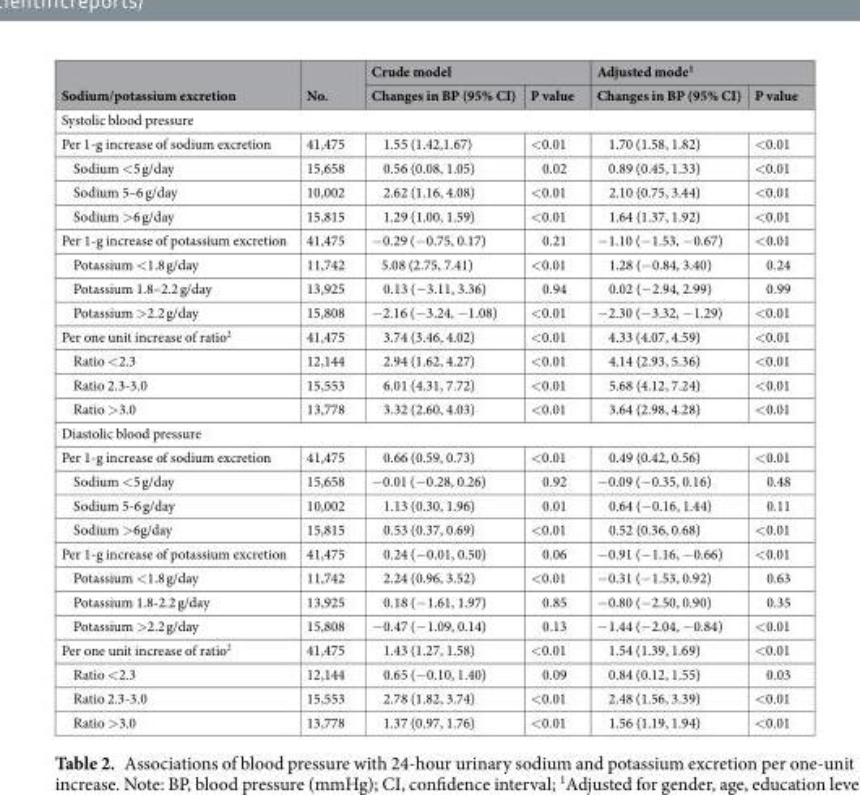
<table><thead><tr><td rowspan="2">Sodium/potassium excretion</td><td rowspan="2">No.</td><td colspan="2">Crude model</td><td colspan="2">Adjusted mode<sup>1</sup></td></tr><tr><td>Changes in BP (95% CI)</td><td>P value</td><td>Changes in BP (95% CI)</td><td>P value</td></tr></thead><tbody><tr><td colspan="6">Systolic blood pressure</td></tr><tr><td>Per 1-g increase of sodium excretion</td><td>41,475</td><td>1.55 (1.42,1.67)</td><td>&lt;0.01</td><td>1.70 (1.58, 1.82)</td><td>&lt;0.01</td></tr><tr><td>Sodium &lt;5 g/day</td><td>15,658</td><td>0.56 (0.08, 1.05)</td><td>0.02</td><td>0.89 (0.45, 1.33)</td><td>&lt;0.01</td></tr><tr><td>Sodium 5–6 g/day</td><td>10,002</td><td>2.62 (1.16, 4.08)</td><td>&lt;0.01</td><td>2.10 (0.75, 3.44)</td><td>&lt;0.01</td></tr><tr><td>Sodium &gt;6 g/day</td><td>15,815</td><td>1.29 (1.00, 1.59)</td><td>&lt;0.01</td><td>1.64 (1.37, 1.92)</td><td>&lt;0.01</td></tr><tr><td>Per 1-g increase of potassium excretion</td><td>41,475</td><td>−0.29 (−0.75, 0.17)</td><td>0.21</td><td>−1.10 (−1.53, −0.67)</td><td>&lt;0.01</td></tr><tr><td>Potassium &lt;1.8 g/day</td><td>11,742</td><td>5.08 (2.75, 7.41)</td><td>&lt;0.01</td><td>1.28 (−0.84, 3.40)</td><td>0.24</td></tr><tr><td>Potassium 1.8–2.2 g/day</td><td>13,925</td><td>0.13 (−3.11, 3.36)</td><td>0.94</td><td>0.02 (−2.94, 2.99)</td><td>0.99</td></tr><tr><td>Potassium &gt;2.2 g/day</td><td>15,808</td><td>−2.16 (−3.24, −1.08)</td><td>&lt;0.01</td><td>−2.30 (−3.32, −1.29)</td><td>&lt;0.01</td></tr><tr><td>Per one unit increase of ratio<sup>2</sup></td><td>41,475</td><td>3.74 (3.46, 4.02)</td><td>&lt;0.01</td><td>4.33 (4.07, 4.59)</td><td>&lt;0.01</td></tr><tr><td>Ratio &lt;2.3</td><td>12,144</td><td>2.94 (1.62, 4.27)</td><td>&lt;0.01</td><td>4.14 (2.93, 5.36)</td><td>&lt;0.01</td></tr><tr><td>Ratio 2.3-3.0</td><td>15,553</td><td>6.01 (4.31, 7.72)</td><td>&lt;0.01</td><td>5.68 (4.12, 7.24)</td><td>&lt;0.01</td></tr><tr><td>Ratio &gt;3.0</td><td>13,778</td><td>3.32 (2.60, 4.03)</td><td>&lt;0.01</td><td>3.64 (2.98, 4.28)</td><td>&lt;0.01</td></tr><tr><td colspan="6">Diastolic blood pressure</td></tr><tr><td>Per 1-g increase of sodium excretion</td><td>41,475</td><td>0.66 (0.59, 0.73)</td><td>&lt;0.01</td><td>0.49 (0.42, 0.56)</td><td>&lt;0.01</td></tr><tr><td>Sodium &lt;5 g/day</td><td>15,658</td><td>−0.01 (−0.28, 0.26)</td><td>0.92</td><td>−0.09 (−0.35, 0.16)</td><td>0.48</td></tr><tr><td>Sodium 5-6 g/day</td><td>10,002</td><td>1.13 (0.30, 1.96)</td><td>0.01</td><td>0.64 (−0.16, 1.44)</td><td>0.11</td></tr><tr><td>Sodium &gt;6g/day</td><td>15,815</td><td>0.53 (0.37, 0.69)</td><td>&lt;0.01</td><td>0.52 (0.36, 0.68)</td><td>&lt;0.01</td></tr><tr><td>Per 1-g increase of potassium excretion</td><td>41,475</td><td>0.24 (−0.01, 0.50)</td><td>0.06</td><td>−0.91 (−1.16, −0.66)</td><td>&lt;0.01</td></tr><tr><td>Potassium &lt;1.8 g/day</td><td>11,742</td><td>2.24 (0.96, 3.52)</td><td>&lt;0.01</td><td>−0.31 (−1.53, 0.92)</td><td>0.63</td></tr><tr><td>Potassium 1.8-2.2 g/day</td><td>13,925</td><td>0.18 (−1.61, 1.97)</td><td>0.85</td><td>−0.80 (−2.50, 0.90)</td><td>0.35</td></tr><tr><td>Potassium &gt;2.2 g/day</td><td>15,808</td><td>−0.47 (−1.09, 0.14)</td><td>0.13</td><td>−1.44 (−2.04, −0.84)</td><td>&lt;0.01</td></tr><tr><td>Per one unit increase of ratio<sup>2</sup></td><td>41,475</td><td>1.43 (1.27, 1.58)</td><td>&lt;0.01</td><td>1.54 (1.39, 1.69)</td><td>&lt;0.01</td></tr><tr><td>Ratio &lt;2.3</td><td>12,144</td><td>0.65 (−0.10, 1.40)</td><td>0.09</td><td>0.84 (0.12, 1.55)</td><td>0.03</td></tr><tr><td>Ratio 2.3-3.0</td><td>15,553</td><td>2.78 (1.82, 3.74)</td><td>&lt;0.01</td><td>2.48 (1.56, 3.39)</td><td>&lt;0.01</td></tr><tr><td>Ratio &gt;3.0</td><td>13,778</td><td>1.37 (0.97, 1.76)</td><td>&lt;0.01</td><td>1.56 (1.19, 1.94)</td><td>&lt;0.01</td></tr></tbody></table>